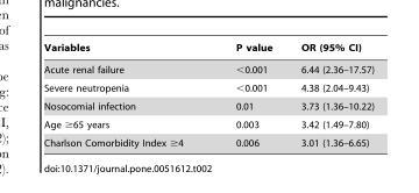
<table><thead><tr><td>Variables</td><td>P value</td><td>OR (95% CI)</td></tr></thead><tbody><tr><td>Acute renal failure</td><td>&lt;0.001</td><td>6.44 (2.36–17.57)</td></tr><tr><td>Severe neutropenia</td><td>&lt;0.001</td><td>4.38 (2.04–9.43)</td></tr><tr><td>Nosocomial infection</td><td>0.01</td><td>3.73 (1.36–10.22)</td></tr><tr><td>Age ≥65 years</td><td>0.003</td><td>3.42 (1.49–7.80)</td></tr><tr><td>Charlson Comorbidity Index ≥4</td><td>0.006</td><td>3.01 (1.36–6.65)</td></tr></tbody></table>